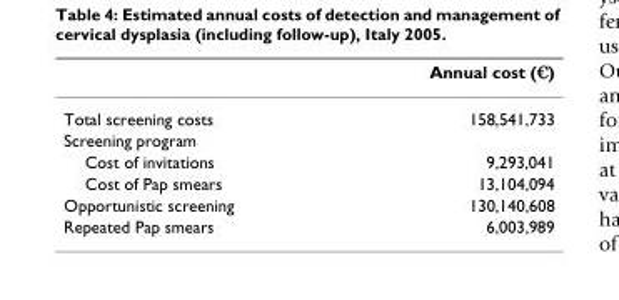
<table><thead><tr><td></td><td>Annual cost (€)</td></tr></thead><tbody><tr><td>Total screening costs</td><td>158,541,733</td></tr><tr><td colspan="2">Screening program</td></tr><tr><td>Cost of invitations</td><td>9,293,041</td></tr><tr><td>Cost of Pap smears</td><td>13,104,094</td></tr><tr><td>Opportunistic screening</td><td>130,140,608</td></tr><tr><td>Repeated Pap smears</td><td>6,003,989</td></tr></tbody></table>